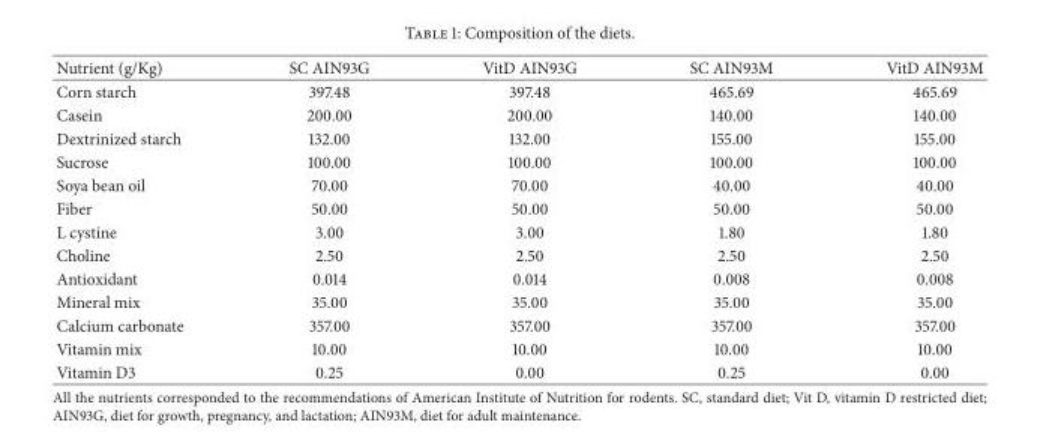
<table><thead><tr><td>Nutrient (g/Kg)</td><td>SC AIN93G</td><td>VitD AIN93G</td><td>SC AIN93M</td><td>VitD AIN93M</td></tr></thead><tbody><tr><td>Corn starch</td><td>397.48</td><td>397.48</td><td>465.69</td><td>465.69</td></tr><tr><td>Casein</td><td>200.00</td><td>200.00</td><td>140.00</td><td>140.00</td></tr><tr><td>Dextrinized starch</td><td>132.00</td><td>132.00</td><td>155.00</td><td>155.00</td></tr><tr><td>Sucrose</td><td>100.00</td><td>100.00</td><td>100.00</td><td>100.00</td></tr><tr><td>Soya bean oil</td><td>70.00</td><td>70.00</td><td>40.00</td><td>40.00</td></tr><tr><td>Fiber</td><td>50.00</td><td>50.00</td><td>50.00</td><td>50.00</td></tr><tr><td>L cystine</td><td>3.00</td><td>3.00</td><td>1.80</td><td>1.80</td></tr><tr><td>Choline</td><td>2.50</td><td>2.50</td><td>2.50</td><td>2.50</td></tr><tr><td>Antioxidant</td><td>0.014</td><td>0.014</td><td>0.008</td><td>0.008</td></tr><tr><td>Mineral mix</td><td>35.00</td><td>35.00</td><td>35.00</td><td>35.00</td></tr><tr><td>Calcium carbonate</td><td>357.00</td><td>357.00</td><td>357.00</td><td>357.00</td></tr><tr><td>Vitamin mix</td><td>10.00</td><td>10.00</td><td>10.00</td><td>10.00</td></tr><tr><td>Vitamin D3</td><td>0.25</td><td>0.00</td><td>0.25</td><td>0.00</td></tr></tbody></table>